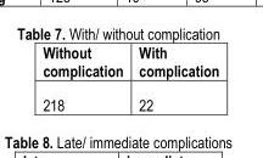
<table><thead><tr><td>Without complication</td><td>With complication</td></tr></thead><tbody><tr><td>218</td><td>22</td></tr></tbody></table>